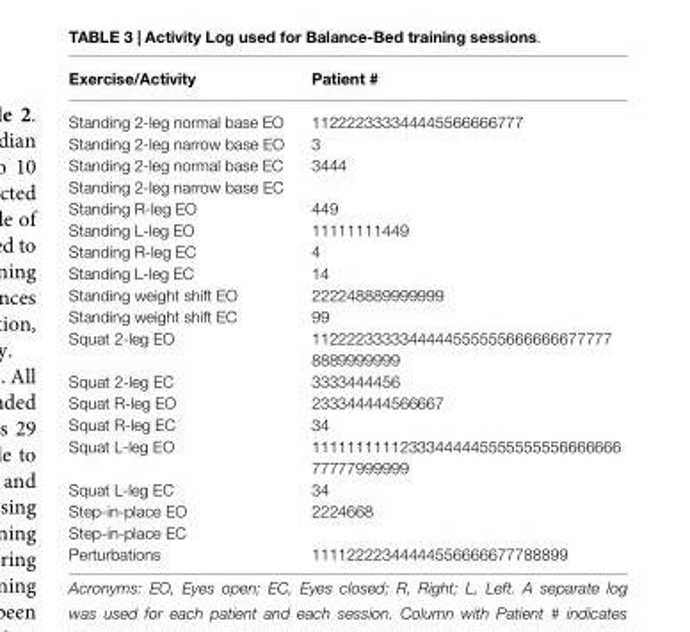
<table><thead><tr><td>Exercise/Activity</td><td>Patient #</td></tr></thead><tbody><tr><td>Standing 2-leg normal base EO</td><td>112222333344445566666777</td></tr><tr><td>Standing 2-leg narrow base EO</td><td>3</td></tr><tr><td>Standing 2-leg normal base EC</td><td>3444</td></tr><tr><td colspan="2">Standing 2-leg narrow base EC</td></tr><tr><td>Standing R-leg EO</td><td>449</td></tr><tr><td>Standing L-leg EO</td><td>11111111449</td></tr><tr><td>Standing R-leg EC</td><td>4</td></tr><tr><td>Standing L-leg EC</td><td>14</td></tr><tr><td>Standing weight shift EO</td><td>222248889999999</td></tr><tr><td>Standing weight shift EC</td><td>99</td></tr><tr><td>Squat 2-leg EO</td><td>1122223333344444555555666666677777 8889999999</td></tr><tr><td>Squat 2-leg EC</td><td>3333444456</td></tr><tr><td>Squat R-leg EO</td><td>233344444566667</td></tr><tr><td>Squat R-leg EC</td><td>34</td></tr><tr><td>Squat L-leg EO</td><td>11111111112333444445555555556666666 77777999999</td></tr><tr><td>Squat L-leg EC</td><td>34</td></tr><tr><td>Step-in-place EO</td><td>2224668</td></tr><tr><td colspan="2">Step-in-place EC</td></tr><tr><td>Perturbations</td><td>11112222344444556666677788899</td></tr></tbody></table>